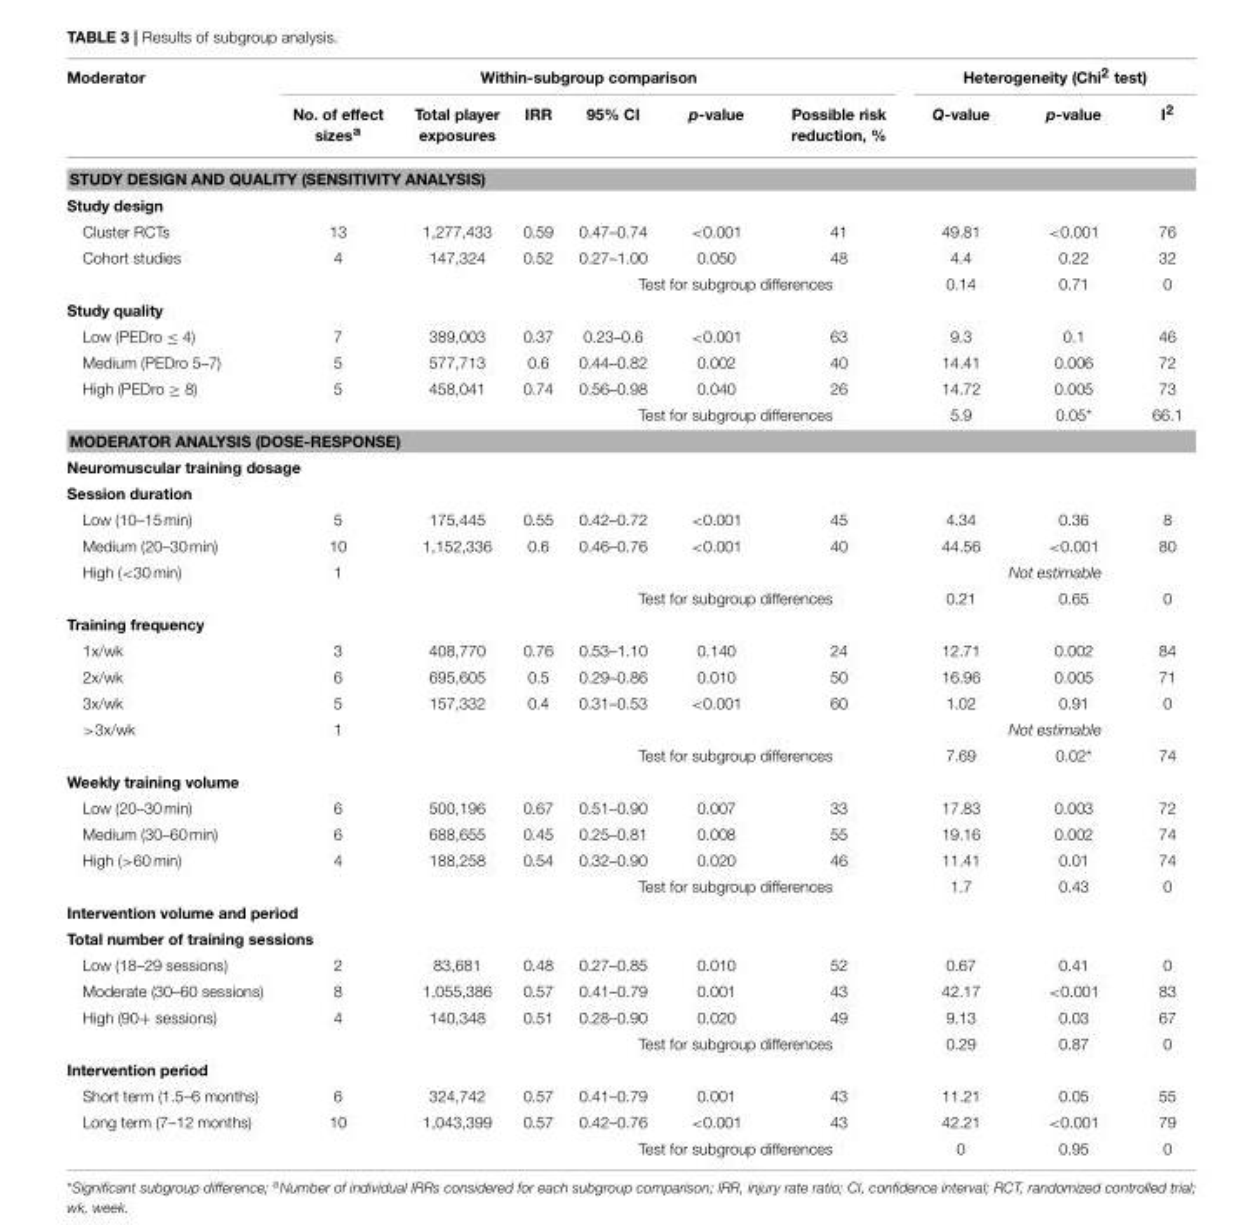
<table><thead><tr><td rowspan="2">Moderator</td><td colspan="6">Within-subgroup comparison</td><td colspan="3">Heterogeneity (Chi<sup>2</sup> test)</td></tr><tr><td>No. of effect sizes<sup>a</sup></td><td>Total player exposures</td><td>IRR</td><td>95% CI</td><td>p-value</td><td>Possible risk reduction, %</td><td>Q-value</td><td>p-value</td><td>I<sup>2</sup></td></tr></thead><tbody><tr><td colspan="10">STUDY DESIGN AND QUALITY (SENSITIVITY ANALYSIS)</td></tr><tr><td colspan="10">Study design</td></tr><tr><td>Cluster RCTs</td><td>13</td><td>1,277,433</td><td>0.59</td><td>0.47–0.74</td><td>&lt;0.001</td><td>41</td><td>49.81</td><td>&lt;0.001</td><td>76</td></tr><tr><td rowspan="2">Cohort studies</td><td>4</td><td>147,324</td><td>0.52</td><td>0.27–1.00</td><td>0.050</td><td>48</td><td>4.4</td><td>0.22</td><td>32</td></tr><tr><td></td><td></td><td></td><td colspan="3">Test for subgroup differences</td><td>0.14</td><td>0.71</td><td>0</td></tr><tr><td colspan="10">Study quality</td></tr><tr><td>Low (PEDro ≤ 4)</td><td>7</td><td>389,003</td><td>0.37</td><td>0.23–0.6</td><td>&lt;0.001</td><td>63</td><td>9.3</td><td>0.1</td><td>46</td></tr><tr><td>Medium (PEDro 5–7)</td><td>5</td><td>577,713</td><td>0.6</td><td>0.44–0.82</td><td>0.002</td><td>40</td><td>14.41</td><td>0.006</td><td>72</td></tr><tr><td rowspan="2">High (PEDro ≥ 8)</td><td>5</td><td>458,041</td><td>0.74</td><td>0.56–0.98</td><td>0.040</td><td>26</td><td>14.72</td><td>0.005</td><td>73</td></tr><tr><td></td><td></td><td></td><td colspan="3">Test for subgroup differences</td><td>5.9</td><td>0.05*</td><td>66.1</td></tr><tr><td colspan="10">MODERATOR ANALYSIS (DOSE-RESPONSE)</td></tr><tr><td colspan="10">Neuromuscular training dosage</td></tr><tr><td colspan="10">Session duration</td></tr><tr><td>Low (10–15 min)</td><td>5</td><td>175,445</td><td>0.55</td><td>0.42–0.72</td><td>&lt;0.001</td><td>45</td><td>4.34</td><td>0.36</td><td>8</td></tr><tr><td>Medium (20–30 min)</td><td>10</td><td>1,152,336</td><td>0.6</td><td>0.46–0.76</td><td>&lt;0.001</td><td>40</td><td>44.56</td><td>&lt;0.001</td><td>80</td></tr><tr><td rowspan="2">High (&lt;30 min)</td><td>1</td><td></td><td></td><td></td><td></td><td></td><td colspan="3">Not estimable</td></tr><tr><td></td><td></td><td></td><td colspan="3">Test for subgroup differences</td><td>0.21</td><td>0.65</td><td>0</td></tr><tr><td colspan="10">Training frequency</td></tr><tr><td>1x/wk</td><td>3</td><td>408,770</td><td>0.76</td><td>0.53–1.10</td><td>0.140</td><td>24</td><td>12.71</td><td>0.002</td><td>84</td></tr><tr><td>2x/wk</td><td>6</td><td>695,605</td><td>0.5</td><td>0.29–0.86</td><td>0.010</td><td>50</td><td>16.96</td><td>0.005</td><td>71</td></tr><tr><td>3x/wk</td><td>5</td><td>157,332</td><td>0.4</td><td>0.31–0.53</td><td>&lt;0.001</td><td>60</td><td>1.02</td><td>0.91</td><td>0</td></tr><tr><td rowspan="2">&gt;3x/wk</td><td>1</td><td></td><td></td><td></td><td></td><td></td><td colspan="3">Not estimable</td></tr><tr><td></td><td></td><td></td><td colspan="3">Test for subgroup differences</td><td>7.69</td><td>0.02*</td><td>74</td></tr><tr><td colspan="10">Weekly training volume</td></tr><tr><td>Low (20–30 min)</td><td>6</td><td>500,196</td><td>0.67</td><td>0.51–0.90</td><td>0.007</td><td>33</td><td>17.83</td><td>0.003</td><td>72</td></tr><tr><td>Medium (30–60 min)</td><td>6</td><td>688,655</td><td>0.45</td><td>0.25–0.81</td><td>0.008</td><td>55</td><td>19.16</td><td>0.002</td><td>74</td></tr><tr><td rowspan="2">High (&gt;60 min)</td><td>4</td><td>188,258</td><td>0.54</td><td>0.32–0.90</td><td>0.020</td><td>46</td><td>11.41</td><td>0.01</td><td>74</td></tr><tr><td></td><td></td><td></td><td colspan="3">Test for subgroup differences</td><td>1.7</td><td>0.43</td><td>0</td></tr><tr><td colspan="10">Intervention volume and period</td></tr><tr><td colspan="10">Total number of training sessions</td></tr><tr><td>Low (18–29 sessions)</td><td>2</td><td>83,681</td><td>0.48</td><td>0.27–0.85</td><td>0.010</td><td>52</td><td>0.67</td><td>0.41</td><td>0</td></tr><tr><td>Moderate (30–60 sessions)</td><td>8</td><td>1,055,386</td><td>0.57</td><td>0.41–0.79</td><td>0.001</td><td>43</td><td>42.17</td><td>&lt;0.001</td><td>83</td></tr><tr><td rowspan="2">High (90+ sessions)</td><td>4</td><td>140,348</td><td>0.51</td><td>0.28–0.90</td><td>0.020</td><td>49</td><td>9.13</td><td>0.03</td><td>67</td></tr><tr><td></td><td></td><td></td><td colspan="3">Test for subgroup differences</td><td>0.29</td><td>0.87</td><td>0</td></tr><tr><td colspan="10">Intervention period</td></tr><tr><td>Short term (1.5–6 months)</td><td>6</td><td>324,742</td><td>0.57</td><td>0.41–0.79</td><td>0.001</td><td>43</td><td>11.21</td><td>0.05</td><td>55</td></tr><tr><td rowspan="2">Long term (7–12 months)</td><td>10</td><td>1,043,399</td><td>0.57</td><td>0.42–0.76</td><td>&lt;0.001</td><td>43</td><td>42.21</td><td>&lt;0.001</td><td>79</td></tr><tr><td></td><td></td><td></td><td colspan="3">Test for subgroup differences</td><td>0</td><td>0.95</td><td>0</td></tr></tbody></table>